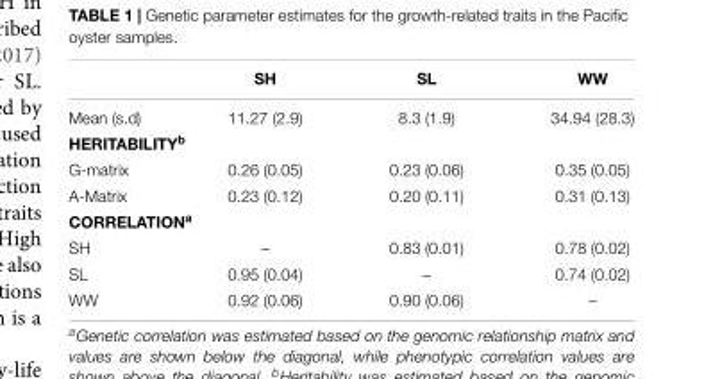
<table><thead><tr><td></td><td>SH</td><td>SL</td><td>WW</td></tr></thead><tbody><tr><td>Mean (s.d)</td><td>11.27 (2.9)</td><td>8.3 (1.9)</td><td>34.94 (28.3)</td></tr><tr><td colspan="4">HERITABILITY<sup>b</sup></td></tr><tr><td>G-matrix</td><td>0.26 (0.05)</td><td>0.23 (0.06)</td><td>0.35 (0.05)</td></tr><tr><td>A-Matrix</td><td>0.23 (0.12)</td><td>0.20 (0.11)</td><td>0.31 (0.13)</td></tr><tr><td colspan="4">CORRELATION<sup>a</sup></td></tr><tr><td>SH</td><td>–</td><td>0.83 (0.01)</td><td>0.78 (0.02)</td></tr><tr><td>SL</td><td>0.95 (0.04)</td><td>–</td><td>0.74 (0.02)</td></tr><tr><td>WW</td><td>0.92 (0.06)</td><td>0.90 (0.06)</td><td>–</td></tr></tbody></table>